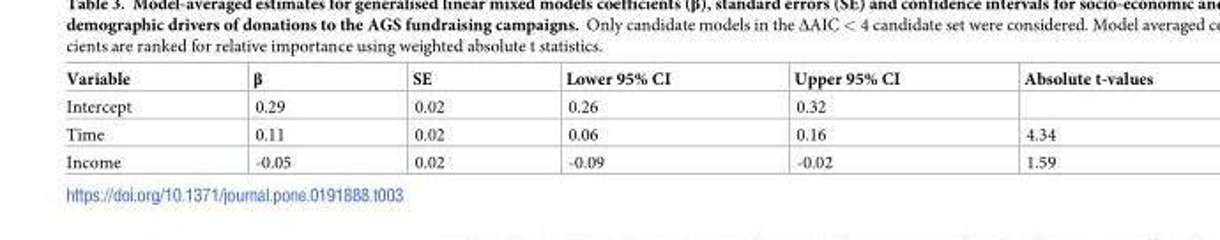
<table><thead><tr><td>Variable</td><td>β</td><td>SE</td><td>Lower 95% CI</td><td>Upper 95% CI</td><td>Absolute t-values</td></tr></thead><tbody><tr><td>Intercept</td><td>0.29</td><td>0.02</td><td>0.26</td><td>0.32</td><td></td></tr><tr><td>Time</td><td>0.11</td><td>0.02</td><td>0.06</td><td>0.16</td><td>4.34</td></tr><tr><td>Income</td><td>-0.05</td><td>0.02</td><td>-0.09</td><td>-0.02</td><td>1.59</td></tr></tbody></table>